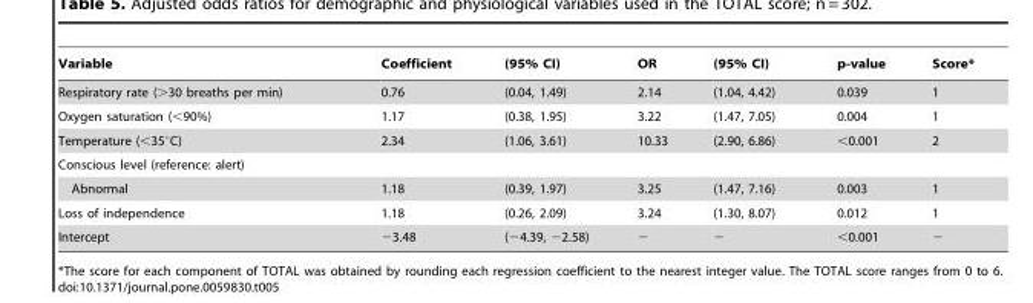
<table><thead><tr><td>Variable</td><td>Coefficient</td><td>(95% CI)</td><td>OR</td><td>(95% CI)</td><td>p-value</td><td>Score*</td></tr></thead><tbody><tr><td>Respiratory rate (&gt;30 breaths per min)</td><td>0.76</td><td>(0.04, 1.49)</td><td>2.14</td><td>(1.04, 4.42)</td><td>0.039</td><td>1</td></tr><tr><td>Oxygen saturation (&lt;90%)</td><td>1.17</td><td>(0.38, 1.95)</td><td>3.22</td><td>(1.47, 7.05)</td><td>0.004</td><td>1</td></tr><tr><td>Temperature (&lt;35°C)</td><td>2.34</td><td>(1.06, 3.61)</td><td>10.33</td><td>(2.90, 6.86)</td><td>&lt;0.001</td><td>2</td></tr><tr><td colspan="7">Conscious level (reference: alert)</td></tr><tr><td>Abnormal</td><td>1.18</td><td>(0.39, 1.97)</td><td>3.25</td><td>(1.47, 7.16)</td><td>0.003</td><td>1</td></tr><tr><td>Loss of independence</td><td>1.18</td><td>(0.26, 2.09)</td><td>3.24</td><td>(1.30, 8.07)</td><td>0.012</td><td>1</td></tr><tr><td>Intercept</td><td>−3.48</td><td>(−4.39, −2.58)</td><td>−</td><td>−</td><td>&lt;0.001</td><td>−</td></tr></tbody></table>